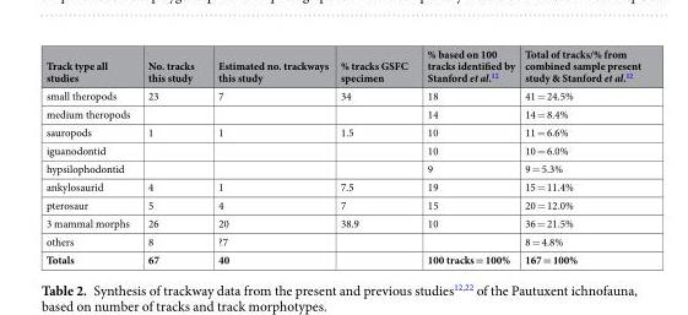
<table><thead><tr><td>Track type all studies</td><td>No. tracks this study</td><td>Estimated no. trackways this study</td><td>% tracks GSFC specimen</td><td>% based on 100 tracks identified by Stanford et al.<sup>12</sup></td><td>Total of tracks/% from combined sample present study &amp; Stanford et al.<sup>12</sup></td></tr></thead><tbody><tr><td>small theropods</td><td>23</td><td>7</td><td>34</td><td>18</td><td>41 = 24.5%</td></tr><tr><td>medium theropods</td><td></td><td></td><td></td><td>14</td><td>14 = 8.4%</td></tr><tr><td>sauropods</td><td>1</td><td>1</td><td>1.5</td><td>10</td><td>11 = 6.6%</td></tr><tr><td>iguanodontid</td><td></td><td></td><td></td><td>10</td><td>10 = 6.0%</td></tr><tr><td>hypsilophodontid</td><td></td><td></td><td></td><td>9</td><td>9 = 5.3%</td></tr><tr><td>ankylosaurid</td><td>4</td><td>1</td><td>7.5</td><td>19</td><td>15 = 11.4%</td></tr><tr><td>pterosaur</td><td>5</td><td>4</td><td>7</td><td>15</td><td>20 = 12.0%</td></tr><tr><td>3 mammal morphs</td><td>26</td><td>20</td><td>38.9</td><td>10</td><td>36 = 21.5%</td></tr><tr><td>others</td><td>8</td><td>?7</td><td></td><td></td><td>8 = 4.8%</td></tr><tr><td>Totals</td><td>67</td><td>40</td><td></td><td>100 tracks = 100%</td><td>167 = 100%</td></tr></tbody></table>